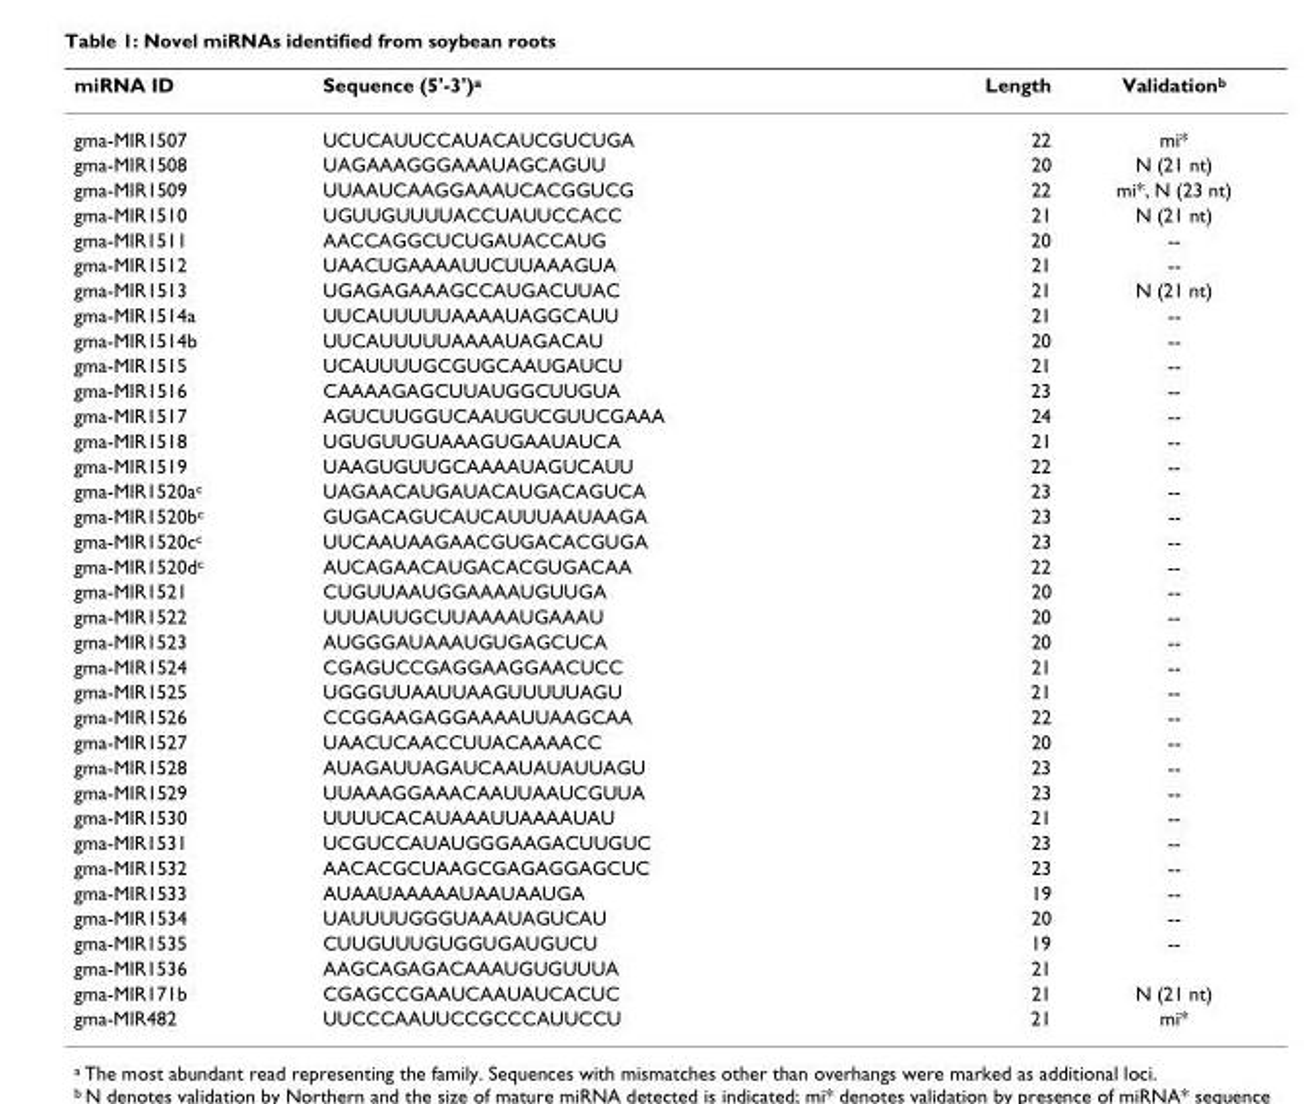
<table><thead><tr><td>miRNA ID</td><td>Sequence (5&#x27;-3&#x27;)<sup>a</sup></td><td>Length</td><td>Validation<sup>b</sup></td></tr></thead><tbody><tr><td>gma-MIR1507</td><td>UCUCAUUCCAUACAUCGUCUGA</td><td>22</td><td>mi*</td></tr><tr><td>gma-MIR1508</td><td>UAGAAAGGGAAAUAGCAGUU</td><td>20</td><td>N (21 nt)</td></tr><tr><td>gma-MIR1509</td><td>UUAAUCAAGGAAAUCACGGUCG</td><td>22</td><td>mi*, N (23 nt)</td></tr><tr><td>gma-MIR1510</td><td>UGUUGUUUUACCUAUUCCACC</td><td>21</td><td>N (21 nt)</td></tr><tr><td>gma-MIR1511</td><td>AACCAGGCUCUGAUACCAUG</td><td>20</td><td>--</td></tr><tr><td>gma-MIR1512</td><td>UAACUGAAAAUUCUUAAAGUA</td><td>21</td><td>--</td></tr><tr><td>gma-MIR1513</td><td>UGAGAGAAAGCCAUGACUUAC</td><td>21</td><td>N (21 nt)</td></tr><tr><td>gma-MIR1514a</td><td>UUCAUUUUUAAAAUAGGCAUU</td><td>21</td><td>--</td></tr><tr><td>gma-MIR1514b</td><td>UUCAUUUUUAAAAUAGACAU</td><td>20</td><td>--</td></tr><tr><td>gma-MIR1515</td><td>UCAUUUUGCGUGCAAUGAUCU</td><td>21</td><td>--</td></tr><tr><td>gma-MIR1516</td><td>CAAAAGAGCUUAUGGCUUGUA</td><td>23</td><td>--</td></tr><tr><td>gma-MIR1517</td><td>AGUCUUGGUCAAUGUCGUUCGAAA</td><td>24</td><td>--</td></tr><tr><td>gma-MIR1518</td><td>UGUGUUGUAAAGUGAAUAUCA</td><td>21</td><td>--</td></tr><tr><td>gma-MIR1519</td><td>UAAGUGUUGCAAAAUAGUCAUU</td><td>22</td><td>--</td></tr><tr><td>gma-MIR1520a<sup>c</sup></td><td>UAGAACAUGAUACAUGACAGUCA</td><td>23</td><td>--</td></tr><tr><td>gma-MIR1520b<sup>c</sup></td><td>GUGACAGUCAUCAUUUAAUAAGA</td><td>23</td><td>--</td></tr><tr><td>gma-MIR1520c<sup>c</sup></td><td>UUCAAUAAGAACGUGACACGUGA</td><td>23</td><td>--</td></tr><tr><td>gma-MIR1520d<sup>c</sup></td><td>AUCAGAACAUGACACGUGACAA</td><td>22</td><td>--</td></tr><tr><td>gma-MIR1521</td><td>CUGUUAAUGGAAAAUGUUGA</td><td>20</td><td>--</td></tr><tr><td>gma-MIR1522</td><td>UUUAUUGCUUAAAAUGAAAU</td><td>20</td><td>--</td></tr><tr><td>gma-MIR1523</td><td>AUGGGAUAAAUGUGAGCUCA</td><td>20</td><td>--</td></tr><tr><td>gma-MIR1524</td><td>CGAGUCCGAGGAAGGAACUCC</td><td>21</td><td>--</td></tr><tr><td>gma-MIR1525</td><td>UGGGUUAAUUAAGUUUUUAGU</td><td>21</td><td>--</td></tr><tr><td>gma-MIR1526</td><td>CCGGAAGAGGAAAAUUAAGCAA</td><td>22</td><td>--</td></tr><tr><td>gma-MIR1527</td><td>UAACUCAACCUUACAAAACC</td><td>20</td><td>--</td></tr><tr><td>gma-MIR1528</td><td>AUAGAUUAGAUCAAUAUAUUAGU</td><td>23</td><td>--</td></tr><tr><td>gma-MIR1529</td><td>UUAAAGGAAACAAUUAAUCGUUA</td><td>23</td><td>--</td></tr><tr><td>gma-MIR1530</td><td>UUUUCACAUAAAUUAAAAUAU</td><td>21</td><td>--</td></tr><tr><td>gma-MIR1531</td><td>UCGUCCAUAUGGGAAGACUUGUC</td><td>23</td><td>--</td></tr><tr><td>gma-MIR1532</td><td>AACACGCUAAGCGAGAGGAGCUC</td><td>23</td><td>--</td></tr><tr><td>gma-MIR1533</td><td>AUAAUAAAAAUAAUAAUGA</td><td>19</td><td>--</td></tr><tr><td>gma-MIR1534</td><td>UAUUUUGGGUAAAUAGUCAU</td><td>20</td><td>--</td></tr><tr><td>gma-MIR1535</td><td>CUUGUUUGUGGUGAUGUCU</td><td>19</td><td>--</td></tr><tr><td>gma-MIR1536</td><td>AAGCAGAGACAAAUGUGUUUA</td><td>21</td><td></td></tr><tr><td>gma-MIR171b</td><td>CGAGCCGAAUCAAUAUCACUC</td><td>21</td><td>N (21 nt)</td></tr><tr><td>gma-MIR482</td><td>UUCCCAAUUCCGCCCAUUCCU</td><td>21</td><td>mi*</td></tr></tbody></table>